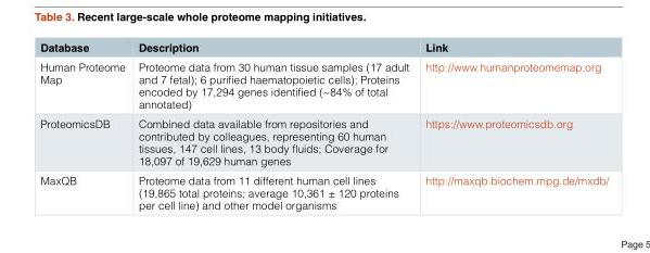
<table><thead><tr><td>Database</td><td>Description</td><td>Link</td></tr></thead><tbody><tr><td>Human Proteome Map</td><td>Proteome data from 30 human tissue samples (17 adult and 7 fetal); 6 purified haematopoietic cells); Proteins encoded by 17,294 genes identified (~84% of total annotated)</td><td>http://www.humanproteomemap.org</td></tr><tr><td>ProteomicsDB</td><td>Combined data available from repositories and contributed by colleagues, representing 60 human tissues, 147 cell lines, 13 body fluids; Coverage for 18,097 of 19,629 human genes</td><td>https://www.proteomicsdb.org</td></tr><tr><td>MaxQB</td><td>Proteome data from 11 different human cell lines (19,865 total proteins; average 10,361 ± 120 proteins per cell line) and other model organisms</td><td>http://maxqb.biochem.mpg.de/mxdb/</td></tr></tbody></table>